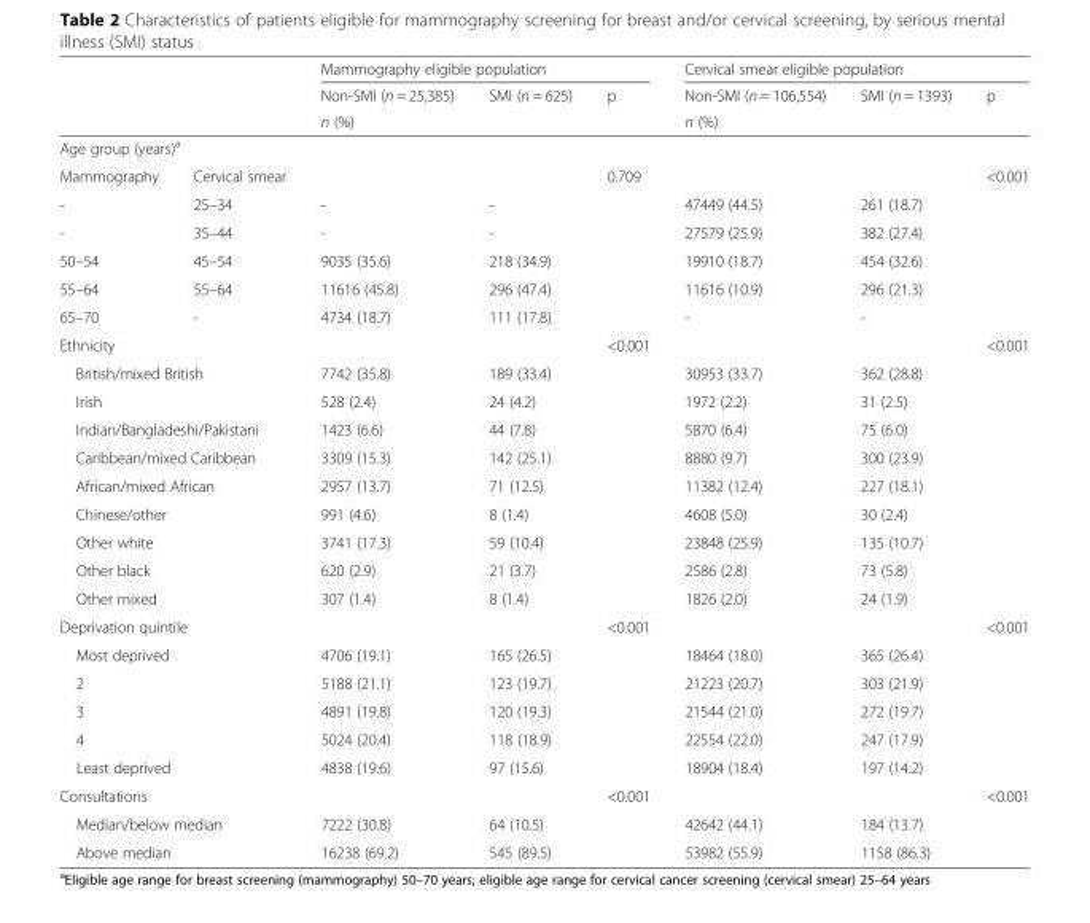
<table><thead><tr><td rowspan="3"></td><td rowspan="3"></td><td colspan="3">Mammography eligible population</td><td colspan="3">Cervical smear eligible population</td></tr><tr><td rowspan="2">Non-SMI (n = 25,385) n (%)</td><td rowspan="2">SMI (n = 625)</td><td rowspan="2">p</td><td rowspan="2">Non-SMI (n = 106,554) n (%)</td><td rowspan="2">SMI (n = 1393)</td><td rowspan="2">p</td></tr><tr></tr></thead><tbody><tr><td colspan="8">Age group (years)<sup>a</sup></td></tr><tr><td>Mammography</td><td>Cervical smear</td><td></td><td></td><td>0.709</td><td></td><td></td><td>&lt;0.001</td></tr><tr><td>-</td><td>25–34</td><td>-</td><td>-</td><td></td><td>47449 (44.5)</td><td>261 (18.7)</td><td></td></tr><tr><td>-</td><td>35–44</td><td>-</td><td>-</td><td></td><td>27579 (25.9)</td><td>382 (27.4)</td><td></td></tr><tr><td>50–54</td><td>45–54</td><td>9035 (35.6)</td><td>218 (34.9)</td><td></td><td>19910 (18.7)</td><td>454 (32.6)</td><td></td></tr><tr><td>55–64</td><td>55–64</td><td>11616 (45.8)</td><td>296 (47.4)</td><td></td><td>11616 (10.9)</td><td>296 (21.3)</td><td></td></tr><tr><td>65–70</td><td>-</td><td>4734 (18.7)</td><td>111 (17.8)</td><td></td><td>-</td><td>-</td><td></td></tr><tr><td>Ethnicity</td><td></td><td></td><td></td><td>&lt;0.001</td><td></td><td></td><td>&lt;0.001</td></tr><tr><td colspan="2">British/mixed British</td><td>7742 (35.8)</td><td>189 (33.4)</td><td></td><td>30953 (33.7)</td><td>362 (28.8)</td><td></td></tr><tr><td colspan="2">Irish</td><td>528 (2.4)</td><td>24 (4.2)</td><td></td><td>1972 (2.2)</td><td>31 (2.5)</td><td></td></tr><tr><td colspan="2">Indian/Bangladeshi/Pakistani</td><td>1423 (6.6)</td><td>44 (7.8)</td><td></td><td>5870 (6.4)</td><td>75 (6.0)</td><td></td></tr><tr><td colspan="2">Caribbean/mixed Caribbean</td><td>3309 (15.3)</td><td>142 (25.1)</td><td></td><td>8880 (9.7)</td><td>300 (23.9)</td><td></td></tr><tr><td colspan="2">African/mixed African</td><td>2957 (13.7)</td><td>71 (12.5)</td><td></td><td>11382 (12.4)</td><td>227 (18.1)</td><td></td></tr><tr><td colspan="2">Chinese/other</td><td>991 (4.6)</td><td>8 (1.4)</td><td></td><td>4608 (5.0)</td><td>30 (2.4)</td><td></td></tr><tr><td colspan="2">Other white</td><td>3741 (17.3)</td><td>59 (10.4)</td><td></td><td>23848 (25.9)</td><td>135 (10.7)</td><td></td></tr><tr><td colspan="2">Other black</td><td>620 (2.9)</td><td>21 (3.7)</td><td></td><td>2586 (2.8)</td><td>73 (5.8)</td><td></td></tr><tr><td colspan="2">Other mixed</td><td>307 (1.4)</td><td>8 (1.4)</td><td></td><td>1826 (2.0)</td><td>24 (1.9)</td><td></td></tr><tr><td colspan="2">Deprivation quintile</td><td></td><td></td><td>&lt;0.001</td><td></td><td></td><td>&lt;0.001</td></tr><tr><td colspan="2">Most deprived</td><td>4706 (19.1)</td><td>165 (26.5)</td><td></td><td>18464 (18.0)</td><td>365 (26.4)</td><td></td></tr><tr><td colspan="2">2</td><td>5188 (21.1)</td><td>123 (19.7)</td><td></td><td>21223 (20.7)</td><td>303 (21.9)</td><td></td></tr><tr><td colspan="2">3</td><td>4891 (19.8)</td><td>120 (19.3)</td><td></td><td>21544 (21.0)</td><td>272 (19.7)</td><td></td></tr><tr><td colspan="2">4</td><td>5024 (20.4)</td><td>118 (18.9)</td><td></td><td>22554 (22.0)</td><td>247 (17.9)</td><td></td></tr><tr><td colspan="2">Least deprived</td><td>4838 (19.6)</td><td>97 (15.6)</td><td></td><td>18904 (18.4)</td><td>197 (14.2)</td><td></td></tr><tr><td colspan="2">Consultations</td><td></td><td></td><td>&lt;0.001</td><td></td><td></td><td>&lt;0.001</td></tr><tr><td colspan="2">Median/below median</td><td>7222 (30.8)</td><td>64 (10.5)</td><td></td><td>42642 (44.1)</td><td>184 (13.7)</td><td></td></tr><tr><td colspan="2">Above median</td><td>16238 (69.2)</td><td>545 (89.5)</td><td></td><td>53982 (55.9)</td><td>1158 (86.3)</td><td></td></tr></tbody></table>